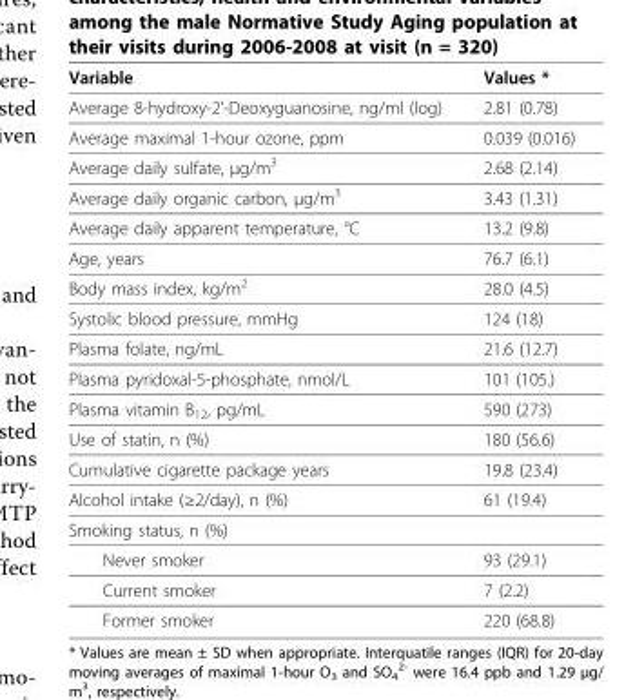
<table><thead><tr><td>Variable</td><td>Values *</td></tr></thead><tbody><tr><td>Average 8-hydroxy-2’-Deoxyguanosine, ng/ml (log)</td><td>2.81 (0.78)</td></tr><tr><td>Average maximal 1-hour ozone, ppm</td><td>0.039 (0.016)</td></tr><tr><td>Average daily sulfate, μg/m<sup>3</sup></td><td>2.68 (2.14)</td></tr><tr><td>Average daily organic carbon, μg/m<sup>3</sup></td><td>3.43 (1.31)</td></tr><tr><td>Average daily apparent temperature, °C</td><td>13.2 (9.8)</td></tr><tr><td>Age, years</td><td>76.7 (6.1)</td></tr><tr><td>Body mass index, kg/m<sup>2</sup></td><td>28.0 (4.5)</td></tr><tr><td>Systolic blood pressure, mmHg</td><td>124 (18)</td></tr><tr><td>Plasma folate, ng/mL</td><td>21.6 (12.7)</td></tr><tr><td>Plasma pyridoxal-5-phosphate, nmol/L</td><td>101 (105.)</td></tr><tr><td>Plasma vitamin B<sub>12</sub>, pg/mL</td><td>590 (273)</td></tr><tr><td>Use of statin, n (%)</td><td>180 (56.6)</td></tr><tr><td>Cumulative cigarette package years</td><td>19.8 (23.4)</td></tr><tr><td>Alcohol intake (≥2/day), n (%)</td><td>61 (19.4)</td></tr><tr><td colspan="2">Smoking status, n (%)</td></tr><tr><td>Never smoker</td><td>93 (29.1)</td></tr><tr><td>Current smoker</td><td>7 (2.2)</td></tr><tr><td>Former smoker</td><td>220 (68.8)</td></tr></tbody></table>